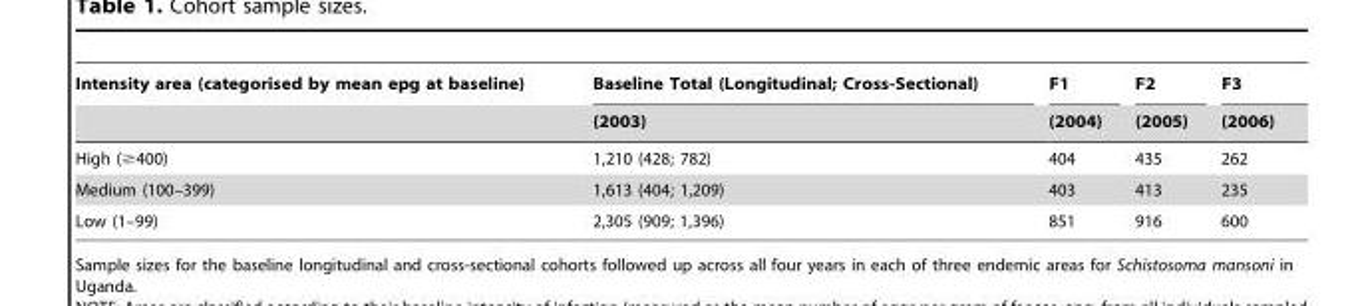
<table><thead><tr><td rowspan="2">Intensity area (categorised by mean epg at baseline)</td><td rowspan="2">Baseline Total (Longitudinal; Cross-Sectional) (2003)</td><td rowspan="2">F1 (2004)</td><td rowspan="2">F2 (2005)</td><td rowspan="2">F3 (2006)</td></tr><tr></tr></thead><tbody><tr><td>High (≥400)</td><td>1,210 (428; 782)</td><td>404</td><td>435</td><td>262</td></tr><tr><td>Medium (100–399)</td><td>1,613 (404; 1,209)</td><td>403</td><td>413</td><td>235</td></tr><tr><td>Low (1–99)</td><td>2,305 (909; 1,396)</td><td>851</td><td>916</td><td>600</td></tr></tbody></table>